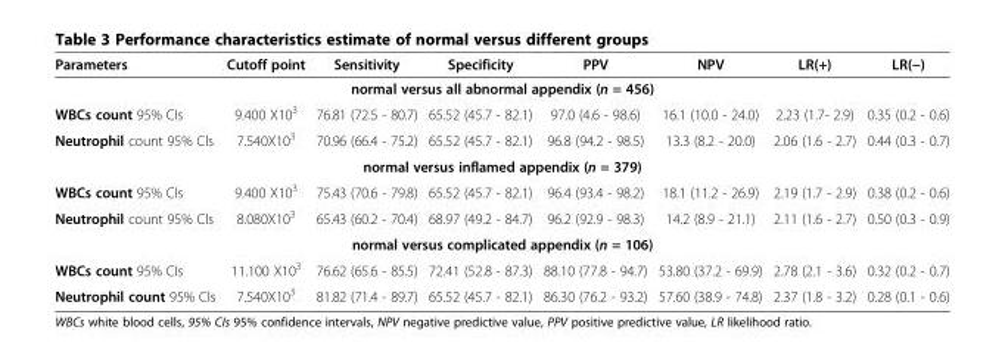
<table><thead><tr><td>Parameters</td><td>Cutoff point</td><td>Sensitivity</td><td>Specificity</td><td>PPV</td><td>NPV</td><td>LR(+)</td><td>LR(−)</td></tr></thead><tbody><tr><td colspan="8">normal versus all abnormal appendix (n = 456)</td></tr><tr><td>WBCs count 95% CIs</td><td>9.400 X10<sup>3</sup></td><td>76.81 (72.5 - 80.7)</td><td>65.52 (45.7 - 82.1)</td><td>97.0 (4.6 - 98.6)</td><td>16.1 (10.0 - 24.0)</td><td>2.23 (1.7- 2.9)</td><td>0.35 (0.2 - 0.6)</td></tr><tr><td>Neutrophil count 95% Cls</td><td>7.540X10<sup>3</sup></td><td>70.96 (66.4 - 75.2)</td><td>65.52 (45.7 - 82.1)</td><td>96.8 (94.2 - 98.5)</td><td>13.3 (8.2 - 20.0)</td><td>2.06 (1.6 - 2.7)</td><td>0.44 (0.3 - 0.7)</td></tr><tr><td colspan="8">normal versus inflamed appendix (n = 379)</td></tr><tr><td>WBCs count 95% CIs</td><td>9.400 X10<sup>3</sup></td><td>75.43 (70.6 - 79.8)</td><td>65.52 (45.7 - 82.1)</td><td>96.4 (93.4 - 98.2)</td><td>18.1 (11.2 - 26.9)</td><td>2.19 (1.7 - 2.9)</td><td>0.38 (0.2 - 0.6)</td></tr><tr><td>Neutrophil count 95% Cls</td><td>8.080X10<sup>3</sup></td><td>65.43 (60.2 - 70.4)</td><td>68.97 (49.2 - 84.7)</td><td>96.2 (92.9 - 98.3)</td><td>14.2 (8.9 - 21.1)</td><td>2.11 (1.6 - 2.7)</td><td>0.50 (0.3 - 0.9)</td></tr><tr><td colspan="8">normal versus complicated appendix (n = 106)</td></tr><tr><td>WBCs count 95% CIs</td><td>11.100 X10<sup>3</sup></td><td>76.62 (65.6 - 85.5)</td><td>72.41 (52.8 - 87.3)</td><td>88.10 (77.8 - 94.7)</td><td>53.80 (37.2 - 69.9)</td><td>2.78 (2.1 - 3.6)</td><td>0.32 (0.2 - 0.7)</td></tr><tr><td>Neutrophil count 95% Cls</td><td>7.540X10<sup>3</sup></td><td>81.82 (71.4 - 89.7)</td><td>65.52 (45.7 - 82.1)</td><td>86.30 (76.2 - 93.2)</td><td>57.60 (38.9 - 74.8)</td><td>2.37 (1.8 - 3.2)</td><td>0.28 (0.1 - 0.6)</td></tr></tbody></table>